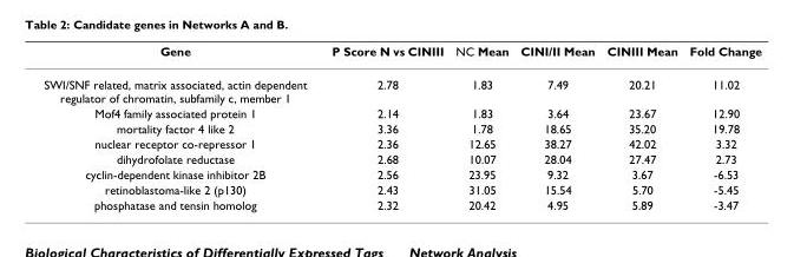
<table><thead><tr><td>Gene</td><td>P Score N vs CINIII</td><td>NC Mean</td><td>CINI/II Mean</td><td>CINIII Mean</td><td>Fold Change</td></tr></thead><tbody><tr><td>SWI/SNF related, matrix associated, actin dependent regulator of chromatin, subfamily c, member 1</td><td>2.78</td><td>1.83</td><td>7.49</td><td>20.21</td><td>11.02</td></tr><tr><td>Mof4 family associated protein 1</td><td>2.14</td><td>1.83</td><td>3.64</td><td>23.67</td><td>12.90</td></tr><tr><td>mortality factor 4 like 2</td><td>3.36</td><td>1.78</td><td>18.65</td><td>35.20</td><td>19.78</td></tr><tr><td>nuclear receptor co-repressor 1</td><td>2.36</td><td>12.65</td><td>38.27</td><td>42.02</td><td>3.32</td></tr><tr><td>dihydrofolate reductase</td><td>2.68</td><td>10.07</td><td>28.04</td><td>27.47</td><td>2.73</td></tr><tr><td>cyclin-dependent kinase inhibitor 2B</td><td>2.56</td><td>23.95</td><td>9.32</td><td>3.67</td><td>-6.53</td></tr><tr><td>retinoblastoma-like 2 (p130)</td><td>2.43</td><td>31.05</td><td>15.54</td><td>5.70</td><td>-5.45</td></tr><tr><td>phosphatase and tensin homolog</td><td>2.32</td><td>20.42</td><td>4.95</td><td>5.89</td><td>-3.47</td></tr></tbody></table>